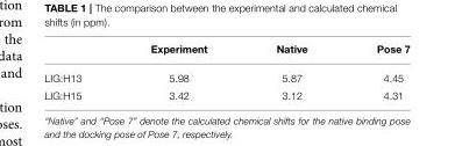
<table><thead><tr><td></td><td>Experiment</td><td>Native</td><td>Pose 7</td></tr></thead><tbody><tr><td>LIG:H13</td><td>5.98</td><td>5.87</td><td>4.45</td></tr><tr><td>LIG:H15</td><td>3.42</td><td>3.12</td><td>4.31</td></tr></tbody></table>